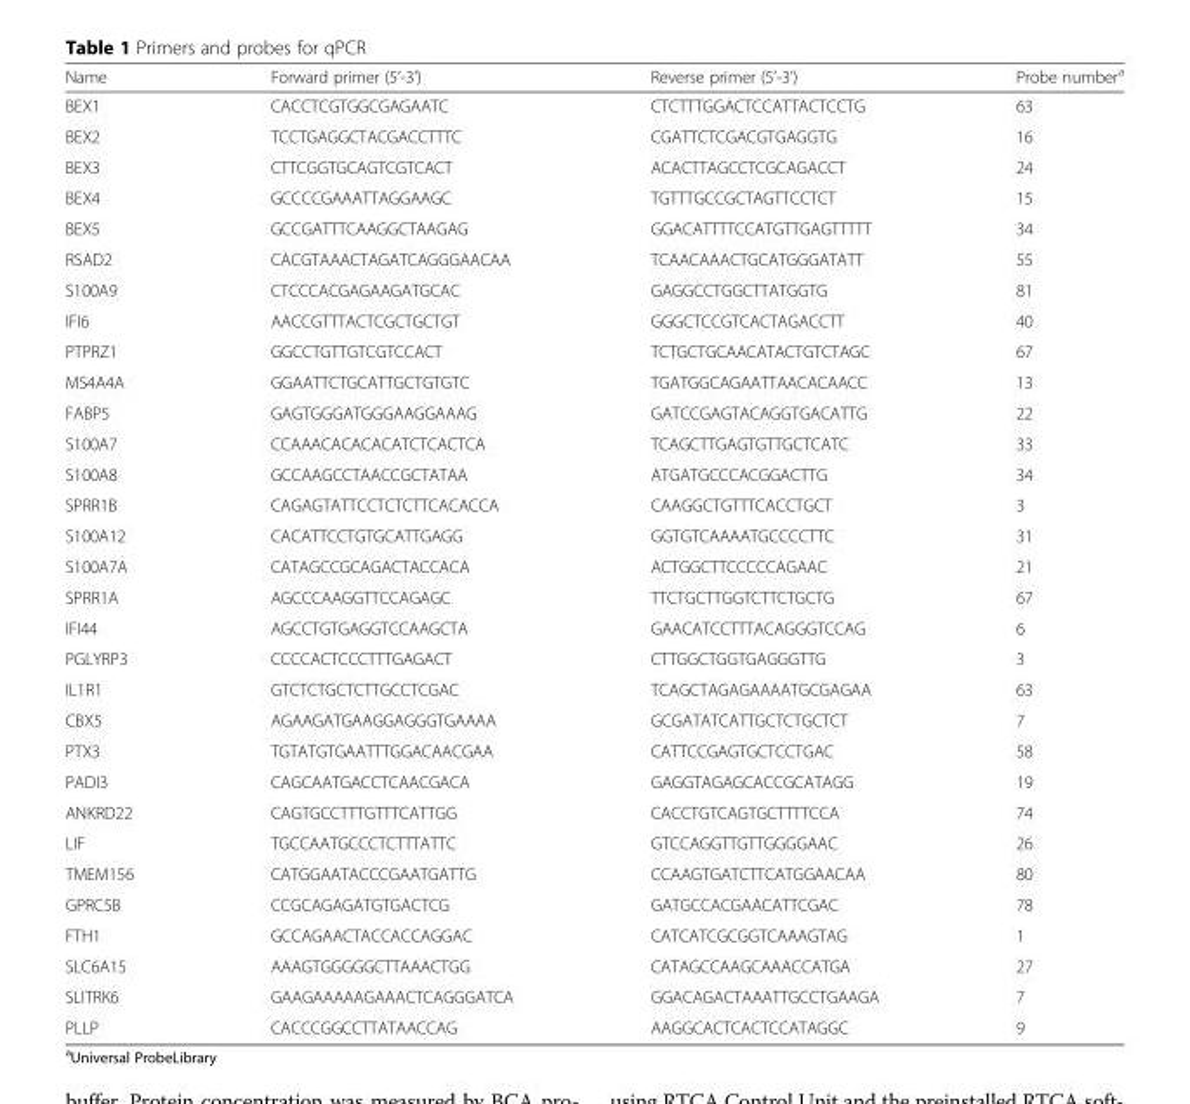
<table><thead><tr><td>Name</td><td>Forward primer (5’-3’)</td><td>Reverse primer (5’-3’)</td><td>Probe number<sup>a</sup></td></tr></thead><tbody><tr><td>BEX1</td><td>CACCTCGTGGCGAGAATC</td><td>CTCTTTGGACTCCATTACTCCTG</td><td>63</td></tr><tr><td>BEX2</td><td>TCCTGAGGCTACGACCTTTC</td><td>CGATTCTCGACGTGAGGTG</td><td>16</td></tr><tr><td>BEX3</td><td>CTTCGGTGCAGTCGTCACT</td><td>ACACTTAGCCTCGCAGACCT</td><td>24</td></tr><tr><td>BEX4</td><td>GCCCCGAAATTAGGAAGC</td><td>TGTTTGCCGCTAGTTCCTCT</td><td>15</td></tr><tr><td>BEX5</td><td>GCCGATTTCAAGGCTAAGAG</td><td>GGACATTTTCCATGTTGAGTTTTT</td><td>34</td></tr><tr><td>RSAD2</td><td>CACGTAAACTAGATCAGGGAACAA</td><td>TCAACAAACTGCATGGGATATT</td><td>55</td></tr><tr><td>S100A9</td><td>CTCCCACGAGAAGATGCAC</td><td>GAGGCCTGGCTTATGGTG</td><td>81</td></tr><tr><td>IFI6</td><td>AACCGTTTACTCGCTGCTGT</td><td>GGGCTCCGTCACTAGACCTT</td><td>40</td></tr><tr><td>PTPRZ1</td><td>GGCCTGTTGTCGTCCACT</td><td>TCTGCTGCAACATACTGTCTAGC</td><td>67</td></tr><tr><td>MS4A4A</td><td>GGAATTCTGCATTGCTGTGTC</td><td>TGATGGCAGAATTAACACAACC</td><td>13</td></tr><tr><td>FABP5</td><td>GAGTGGGATGGGAAGGAAAG</td><td>GATCCGAGTACAGGTGACATTG</td><td>22</td></tr><tr><td>S100A7</td><td>CCAAACACACACATCTCACTCA</td><td>TCAGCTTGAGTGTTGCTCATC</td><td>33</td></tr><tr><td>S100A8</td><td>GCCAAGCCTAACCGCTATAA</td><td>ATGATGCCCACGGACTTG</td><td>34</td></tr><tr><td>SPRR1B</td><td>CAGAGTATTCCTCTCTTCACACCA</td><td>CAAGGCTGTTTCACCTGCT</td><td>3</td></tr><tr><td>S100A12</td><td>CACATTCCTGTGCATTGAGG</td><td>GGTGTCAAAATGCCCCTTC</td><td>31</td></tr><tr><td>S100A7A</td><td>CATAGCCGCAGACTACCACA</td><td>ACTGGCTTCCCCCAGAAC</td><td>21</td></tr><tr><td>SPRR1A</td><td>AGCCCAAGGTTCCAGAGC</td><td>TTCTGCTTGGTCTTCTGCTG</td><td>67</td></tr><tr><td>IFI44</td><td>AGCCTGTGAGGTCCAAGCTA</td><td>GAACATCCTTTACAGGGTCCAG</td><td>6</td></tr><tr><td>PGLYRP3</td><td>CCCCACTCCCTTTGAGACT</td><td>CTTGGCTGGTGAGGGTTG</td><td>3</td></tr><tr><td>IL1R1</td><td>GTCTCTGCTCTTGCCTCGAC</td><td>TCAGCTAGAGAAAATGCGAGAA</td><td>63</td></tr><tr><td>CBX5</td><td>AGAAGATGAAGGAGGGTGAAAA</td><td>GCGATATCATTGCTCTGCTCT</td><td>7</td></tr><tr><td>PTX3</td><td>TGTATGTGAATTTGGACAACGAA</td><td>CATTCCGAGTGCTCCTGAC</td><td>58</td></tr><tr><td>PADI3</td><td>CAGCAATGACCTCAACGACA</td><td>GAGGTAGAGCACCGCATAGG</td><td>19</td></tr><tr><td>ANKRD22</td><td>CAGTGCCTTTGTTTCATTGG</td><td>CACCTGTCAGTGCTTTTCCA</td><td>74</td></tr><tr><td>LIF</td><td>TGCCAATGCCCTCTTTATTC</td><td>GTCCAGGTTGTTGGGGAAC</td><td>26</td></tr><tr><td>TMEM156</td><td>CATGGAATACCCGAATGATTG</td><td>CCAAGTGATCTTCATGGAACAA</td><td>80</td></tr><tr><td>GPRC5B</td><td>CCGCAGAGATGTGACTCG</td><td>GATGCCACGAACATTCGAC</td><td>78</td></tr><tr><td>FTH1</td><td>GCCAGAACTACCACCAGGAC</td><td>CATCATCGCGGTCAAAGTAG</td><td>1</td></tr><tr><td>SLC6A15</td><td>AAAGTGGGGGCTTAAACTGG</td><td>CATAGCCAAGCAAACCATGA</td><td>27</td></tr><tr><td>SLITRK6</td><td>GAAGAAAAAGAAACTCAGGGATCA</td><td>GGACAGACTAAATTGCCTGAAGA</td><td>7</td></tr><tr><td>PLLP</td><td>CACCCGGCCTTATAACCAG</td><td>AAGGCACTCACTCCATAGGC</td><td>9</td></tr></tbody></table>